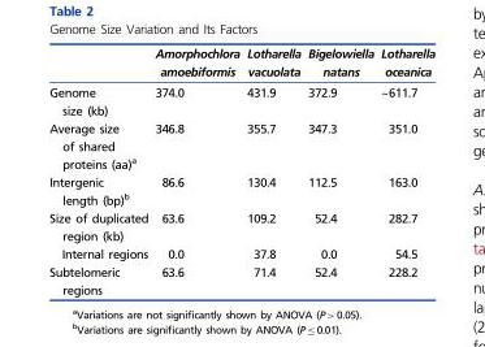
<table><thead><tr><td></td><td>Amorphochlora amoebiformis</td><td>Lotharella vacuolata</td><td>Bigelowiella natans</td><td>Lotharella oceanica</td></tr></thead><tbody><tr><td>Genome size (kb)</td><td>374.0</td><td>431.9</td><td>372.9</td><td>~611.7</td></tr><tr><td>Average size of shared proteins (aa)<sup>a</sup></td><td>346.8</td><td>355.7</td><td>347.3</td><td>351.0</td></tr><tr><td>Intergenic length (bp)<sup>b</sup></td><td>86.6</td><td>130.4</td><td>112.5</td><td>163.0</td></tr><tr><td>Size of duplicated region (kb)</td><td>63.6</td><td>109.2</td><td>52.4</td><td>282.7</td></tr><tr><td>Internal regions</td><td>0.0</td><td>37.8</td><td>0.0</td><td>54.5</td></tr><tr><td>Subtelomeric regions</td><td>63.6</td><td>71.4</td><td>52.4</td><td>228.2</td></tr></tbody></table>